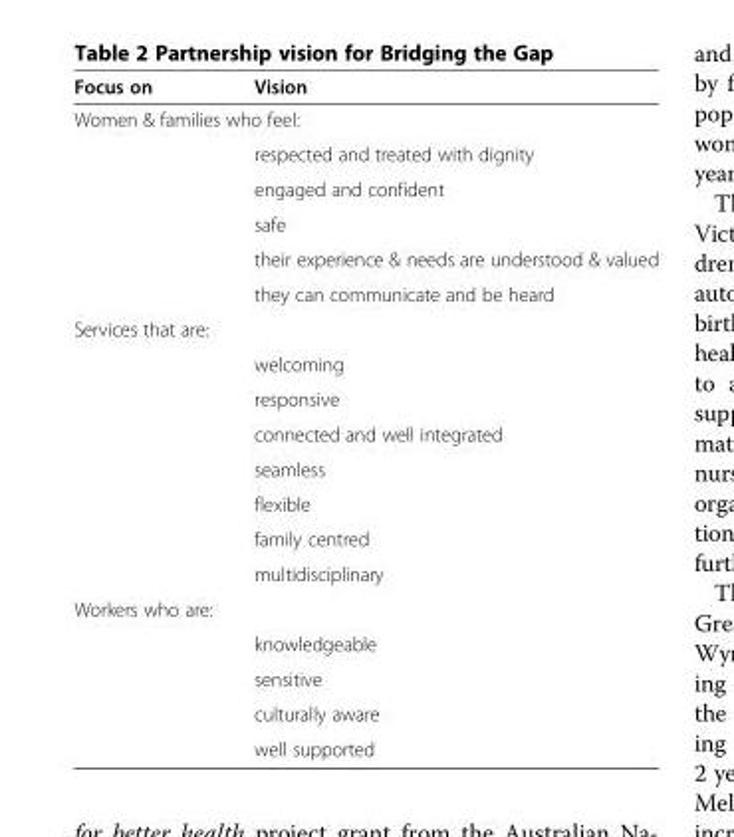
<table><thead><tr><td>Focus on</td><td>Vision</td></tr></thead><tbody><tr><td colspan="2">Women &amp; families who feel:</td></tr><tr><td></td><td>respected and treated with dignity</td></tr><tr><td></td><td>engaged and confident</td></tr><tr><td></td><td>safe</td></tr><tr><td></td><td>their experience &amp; needs are understood &amp; valued</td></tr><tr><td></td><td>they can communicate and be heard</td></tr><tr><td colspan="2">Services that are:</td></tr><tr><td></td><td>welcoming</td></tr><tr><td></td><td>responsive</td></tr><tr><td></td><td>connected and well integrated</td></tr><tr><td></td><td>seamless</td></tr><tr><td></td><td>flexible</td></tr><tr><td></td><td>family centred</td></tr><tr><td></td><td>multidisciplinary</td></tr><tr><td colspan="2">Workers who are:</td></tr><tr><td></td><td>knowledgeable</td></tr><tr><td></td><td>sensitive</td></tr><tr><td></td><td>culturally aware</td></tr><tr><td></td><td>well supported</td></tr></tbody></table>